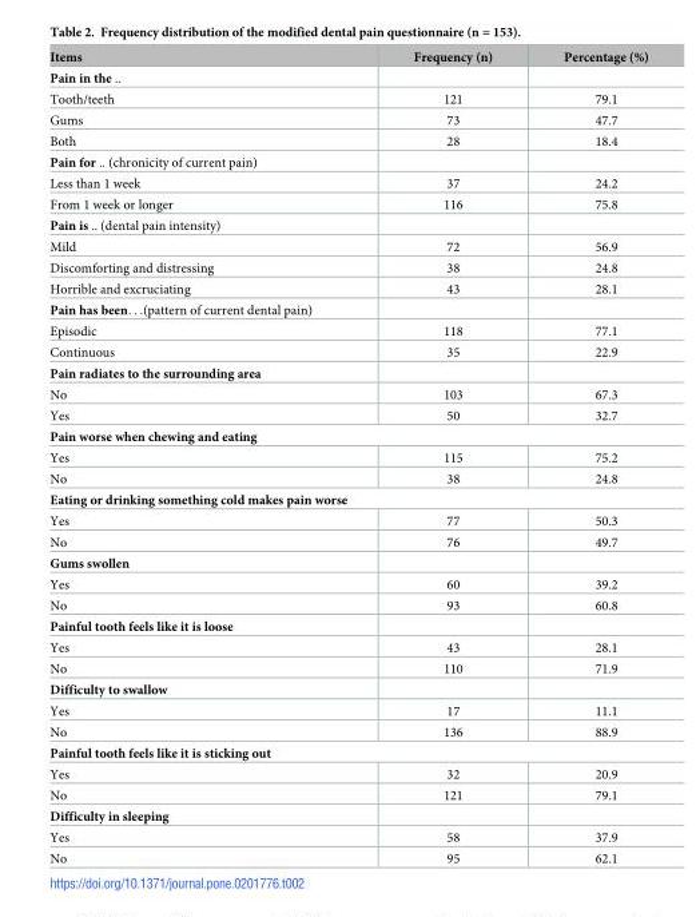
<table><thead><tr><td>Items</td><td>Frequency (n)</td><td>Percentage (%)</td></tr></thead><tbody><tr><td colspan="3">Pain in the ..</td></tr><tr><td>Tooth/teeth</td><td>121</td><td>79.1</td></tr><tr><td>Gums</td><td>73</td><td>47.7</td></tr><tr><td>Both</td><td>28</td><td>18.4</td></tr><tr><td colspan="3">Pain for .. (chronicity of current pain)</td></tr><tr><td>Less than 1 week</td><td>37</td><td>24.2</td></tr><tr><td>From 1 week or longer</td><td>116</td><td>75.8</td></tr><tr><td colspan="3">Pain is .. (dental pain intensity)</td></tr><tr><td>Mild</td><td>72</td><td>56.9</td></tr><tr><td>Discomforting and distressing</td><td>38</td><td>24.8</td></tr><tr><td>Horrible and excruciating</td><td>43</td><td>28.1</td></tr><tr><td colspan="3">Pain has been. . .(pattern of current dental pain)</td></tr><tr><td>Episodic</td><td>118</td><td>77.1</td></tr><tr><td>Continuous</td><td>35</td><td>22.9</td></tr><tr><td colspan="3">Pain radiates to the surrounding area</td></tr><tr><td>No</td><td>103</td><td>67.3</td></tr><tr><td>Yes</td><td>50</td><td>32.7</td></tr><tr><td colspan="3">Pain worse when chewing and eating</td></tr><tr><td>Yes</td><td>115</td><td>75.2</td></tr><tr><td>No</td><td>38</td><td>24.8</td></tr><tr><td colspan="3">Eating or drinking something cold makes pain worse</td></tr><tr><td>Yes</td><td>77</td><td>50.3</td></tr><tr><td>No</td><td>76</td><td>49.7</td></tr><tr><td colspan="3">Gums swollen</td></tr><tr><td>Yes</td><td>60</td><td>39.2</td></tr><tr><td>No</td><td>93</td><td>60.8</td></tr><tr><td colspan="3">Painful tooth feels like it is loose</td></tr><tr><td>Yes</td><td>43</td><td>28.1</td></tr><tr><td>No</td><td>110</td><td>71.9</td></tr><tr><td colspan="3">Difficulty to swallow</td></tr><tr><td>Yes</td><td>17</td><td>11.1</td></tr><tr><td>No</td><td>136</td><td>88.9</td></tr><tr><td colspan="3">Painful tooth feels like it is sticking out</td></tr><tr><td>Yes</td><td>32</td><td>20.9</td></tr><tr><td>No</td><td>121</td><td>79.1</td></tr><tr><td colspan="3">Difficulty in sleeping</td></tr><tr><td>Yes</td><td>58</td><td>37.9</td></tr><tr><td>No</td><td>95</td><td>62.1</td></tr></tbody></table>